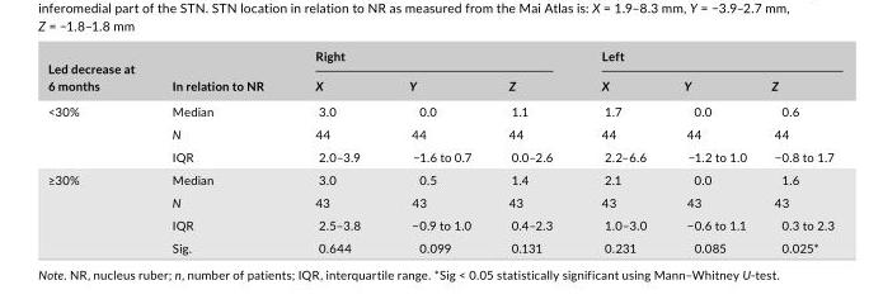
<table><thead><tr><td rowspan="2">Led decrease at 6 months</td><td rowspan="2">In relation to NR</td><td colspan="3">Right</td><td colspan="3">Left</td></tr><tr><td>X</td><td>Y</td><td>Z</td><td>X</td><td>Y</td><td>Z</td></tr></thead><tbody><tr><td rowspan="3">&lt;30%</td><td>Median</td><td>3.0</td><td>0.0</td><td>1.1</td><td>1.7</td><td>0.0</td><td>0.6</td></tr><tr><td>N</td><td>44</td><td>44</td><td>44</td><td>44</td><td>44</td><td>44</td></tr><tr><td>IQR</td><td>2.0–3.9</td><td>−1.6 to 0.7</td><td>0.0–2.6</td><td>2.2–6.6</td><td>−1.2 to 1.0</td><td>−0.8 to 1.7</td></tr><tr><td rowspan="4">≥30%</td><td>Median</td><td>3.0</td><td>0.5</td><td>1.4</td><td>2.1</td><td>0.0</td><td>1.6</td></tr><tr><td>N</td><td>43</td><td>43</td><td>43</td><td>43</td><td>43</td><td>43</td></tr><tr><td>IQR</td><td>2.5–3.8</td><td>−0.9 to 1.0</td><td>0.4–2.3</td><td>1.0–3.0</td><td>−0.6 to 1.1</td><td>0.3 to 2.3</td></tr><tr><td>Sig.</td><td>0.644</td><td>0.099</td><td>0.131</td><td>0.231</td><td>0.085</td><td>0.025*</td></tr></tbody></table>